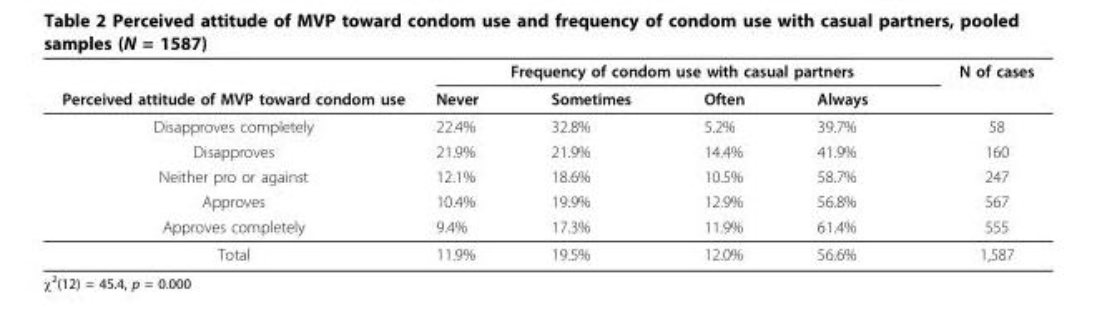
<table><thead><tr><td rowspan="2">Perceived attitude of MVP toward condom use</td><td colspan="4">Frequency of condom use with casual partners</td><td rowspan="2">N of cases</td></tr><tr><td>Never</td><td>Sometimes</td><td>Often</td><td>Always</td></tr></thead><tbody><tr><td>Disapproves completely</td><td>22.4%</td><td>32.8%</td><td>5.2%</td><td>39.7%</td><td>58</td></tr><tr><td>Disapproves</td><td>21.9%</td><td>21.9%</td><td>14.4%</td><td>41.9%</td><td>160</td></tr><tr><td>Neither pro or against</td><td>12.1%</td><td>18.6%</td><td>10.5%</td><td>58.7%</td><td>247</td></tr><tr><td>Approves</td><td>10.4%</td><td>19.9%</td><td>12.9%</td><td>56.8%</td><td>567</td></tr><tr><td>Approves completely</td><td>9.4%</td><td>17.3%</td><td>11.9%</td><td>61.4%</td><td>555</td></tr><tr><td>Total</td><td>11.9%</td><td>19.5%</td><td>12.0%</td><td>56.6%</td><td>1,587</td></tr></tbody></table>